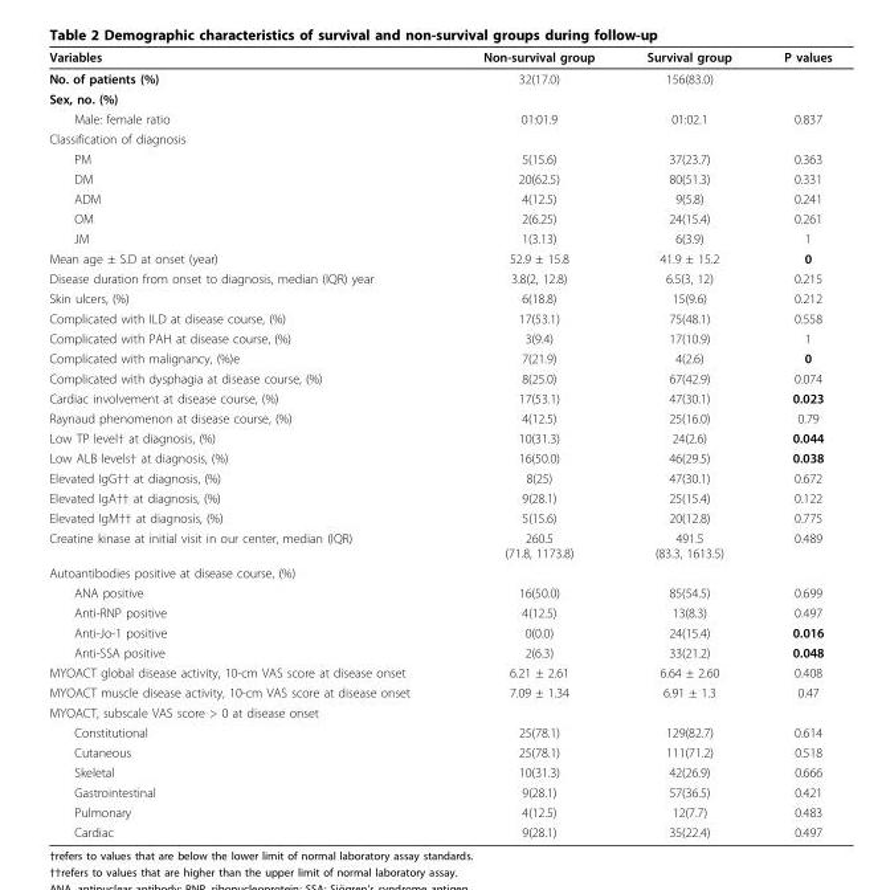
<table><thead><tr><td>Variables</td><td>Non-survival group</td><td>Survival group</td><td>P values</td></tr></thead><tbody><tr><td>No. of patients (%)</td><td>32(17.0)</td><td>156(83.0)</td><td></td></tr><tr><td colspan="4">Sex, no. (%)</td></tr><tr><td>Male: female ratio</td><td>01:01.9</td><td>01:02.1</td><td>0.837</td></tr><tr><td colspan="4">Classification of diagnosis</td></tr><tr><td>PM</td><td>5(15.6)</td><td>37(23.7)</td><td>0.363</td></tr><tr><td>DM</td><td>20(62.5)</td><td>80(51.3)</td><td>0.331</td></tr><tr><td>ADM</td><td>4(12.5)</td><td>9(5.8)</td><td>0.241</td></tr><tr><td>OM</td><td>2(6.25)</td><td>24(15.4)</td><td>0.261</td></tr><tr><td>JM</td><td>1(3.13)</td><td>6(3.9)</td><td>1</td></tr><tr><td>Mean age ± S.D at onset (year)</td><td>52.9 ± 15.8</td><td>41.9 ± 15.2</td><td>0</td></tr><tr><td>Disease duration from onset to diagnosis, median (IQR) year</td><td>3.8(2, 12.8)</td><td>6.5(3, 12)</td><td>0.215</td></tr><tr><td>Skin ulcers, (%)</td><td>6(18.8)</td><td>15(9.6)</td><td>0.212</td></tr><tr><td>Complicated with ILD at disease course, (%)</td><td>17(53.1)</td><td>75(48.1)</td><td>0.558</td></tr><tr><td>Complicated with PAH at disease course, (%)</td><td>3(9.4)</td><td>17(10.9)</td><td>1</td></tr><tr><td>Complicated with malignancy, (%)e</td><td>7(21.9)</td><td>4(2.6)</td><td>0</td></tr><tr><td>Complicated with dysphagia at disease course, (%)</td><td>8(25.0)</td><td>67(42.9)</td><td>0.074</td></tr><tr><td>Cardiac involvement at disease course, (%)</td><td>17(53.1)</td><td>47(30.1)</td><td>0.023</td></tr><tr><td>Raynaud phenomenon at disease course, (%)</td><td>4(12.5)</td><td>25(16.0)</td><td>0.79</td></tr><tr><td>Low TP level† at diagnosis, (%)</td><td>10(31.3)</td><td>24(2.6)</td><td>0.044</td></tr><tr><td>Low ALB levels† at diagnosis, (%)</td><td>16(50.0)</td><td>46(29.5)</td><td>0.038</td></tr><tr><td>Elevated IgG†† at diagnosis, (%)</td><td>8(25)</td><td>47(30.1)</td><td>0.672</td></tr><tr><td>Elevated IgA†† at diagnosis, (%)</td><td>9(28.1)</td><td>25(15.4)</td><td>0.122</td></tr><tr><td>Elevated IgM†† at diagnosis, (%)</td><td>5(15.6)</td><td>20(12.8)</td><td>0.775</td></tr><tr><td>Creatine kinase at initial visit in our center, median (IQR)</td><td>260.5 (71.8, 1173.8)</td><td>491.5 (83.3, 1613.5)</td><td>0.489</td></tr><tr><td colspan="4">Autoantibodies positive at disease course, (%)</td></tr><tr><td>ANA positive</td><td>16(50.0)</td><td>85(54.5)</td><td>0.699</td></tr><tr><td>Anti-RNP positive</td><td>4(12.5)</td><td>13(8.3)</td><td>0.497</td></tr><tr><td>Anti-Jo-1 positive</td><td>0(0.0)</td><td>24(15.4)</td><td>0.016</td></tr><tr><td>Anti-SSA positive</td><td>2(6.3)</td><td>33(21.2)</td><td>0.048</td></tr><tr><td>MYOACT global disease activity, 10-cm VAS score at disease onset</td><td>6.21 ± 2.61</td><td>6.64 ± 2.60</td><td>0.408</td></tr><tr><td>MYOACT muscle disease activity, 10-cm VAS score at disease onset</td><td>7.09 ± 1.34</td><td>6.91 ± 1.3</td><td>0.47</td></tr><tr><td colspan="4">MYOACT, subscale VAS score &gt; 0 at disease onset</td></tr><tr><td>Constitutional</td><td>25(78.1)</td><td>129(82.7)</td><td>0.614</td></tr><tr><td>Cutaneous</td><td>25(78.1)</td><td>111(71.2)</td><td>0.518</td></tr><tr><td>Skeletal</td><td>10(31.3)</td><td>42(26.9)</td><td>0.666</td></tr><tr><td>Gastrointestinal</td><td>9(28.1)</td><td>57(36.5)</td><td>0.421</td></tr><tr><td>Pulmonary</td><td>4(12.5)</td><td>12(7.7)</td><td>0.483</td></tr><tr><td>Cardiac</td><td>9(28.1)</td><td>35(22.4)</td><td>0.497</td></tr></tbody></table>